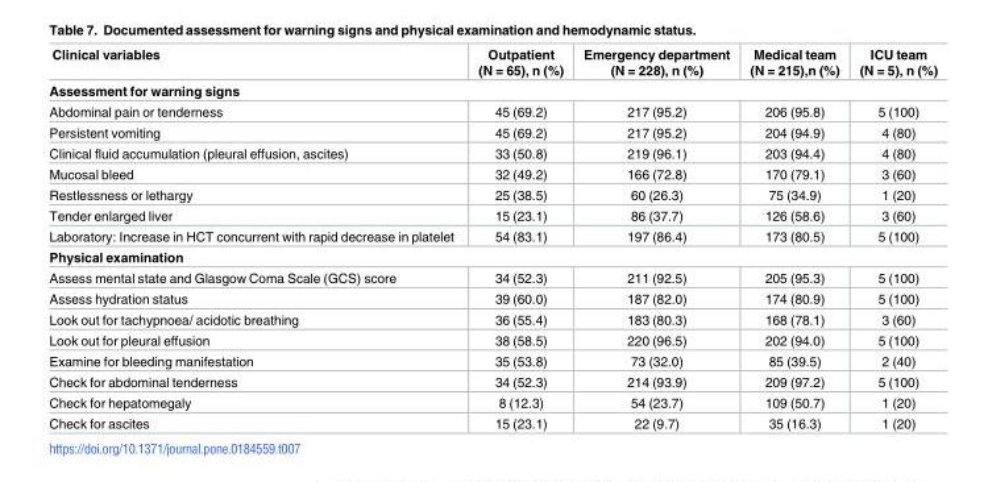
<table><thead><tr><td>Clinical variables</td><td>Outpatient (N = 65), n (%)</td><td>Emergency department (N = 228), n (%)</td><td>Medical team (N = 215),n (%)</td><td>ICU team (N = 5), n (%)</td></tr></thead><tbody><tr><td colspan="5">Assessment for warning signs</td></tr><tr><td>Abdominal pain or tenderness</td><td>45 (69.2)</td><td>217 (95.2)</td><td>206 (95.8)</td><td>5 (100)</td></tr><tr><td>Persistent vomiting</td><td>45 (69.2)</td><td>217 (95.2)</td><td>204 (94.9)</td><td>4 (80)</td></tr><tr><td>Clinical fluid accumulation (pleural effusion, ascites)</td><td>33 (50.8)</td><td>219 (96.1)</td><td>203 (94.4)</td><td>4 (80)</td></tr><tr><td>Mucosal bleed</td><td>32 (49.2)</td><td>166 (72.8)</td><td>170 (79.1)</td><td>3 (60)</td></tr><tr><td>Restlessness or lethargy</td><td>25 (38.5)</td><td>60 (26.3)</td><td>75 (34.9)</td><td>1 (20)</td></tr><tr><td>Tender enlarged liver</td><td>15 (23.1)</td><td>86 (37.7)</td><td>126 (58.6)</td><td>3 (60)</td></tr><tr><td>Laboratory: Increase in HCT concurrent with rapid decrease in platelet</td><td>54 (83.1)</td><td>197 (86.4)</td><td>173 (80.5)</td><td>5 (100)</td></tr><tr><td colspan="5">Physical examination</td></tr><tr><td>Assess mental state and Glasgow Coma Scale (GCS) score</td><td>34 (52.3)</td><td>211 (92.5)</td><td>205 (95.3)</td><td>5 (100)</td></tr><tr><td>Assess hydration status</td><td>39 (60.0)</td><td>187 (82.0)</td><td>174 (80.9)</td><td>5 (100)</td></tr><tr><td>Look out for tachypnoea/ acidotic breathing</td><td>36 (55.4)</td><td>183 (80.3)</td><td>168 (78.1)</td><td>3 (60)</td></tr><tr><td>Look out for pleural effusion</td><td>38 (58.5)</td><td>220 (96.5)</td><td>202 (94.0)</td><td>5 (100)</td></tr><tr><td>Examine for bleeding manifestation</td><td>35 (53.8)</td><td>73 (32.0)</td><td>85 (39.5)</td><td>2 (40)</td></tr><tr><td>Check for abdominal tenderness</td><td>34 (52.3)</td><td>214 (93.9)</td><td>209 (97.2)</td><td>5 (100)</td></tr><tr><td>Check for hepatomegaly</td><td>8 (12.3)</td><td>54 (23.7)</td><td>109 (50.7)</td><td>1 (20)</td></tr><tr><td>Check for ascites</td><td>15 (23.1)</td><td>22 (9.7)</td><td>35 (16.3)</td><td>1 (20)</td></tr></tbody></table>